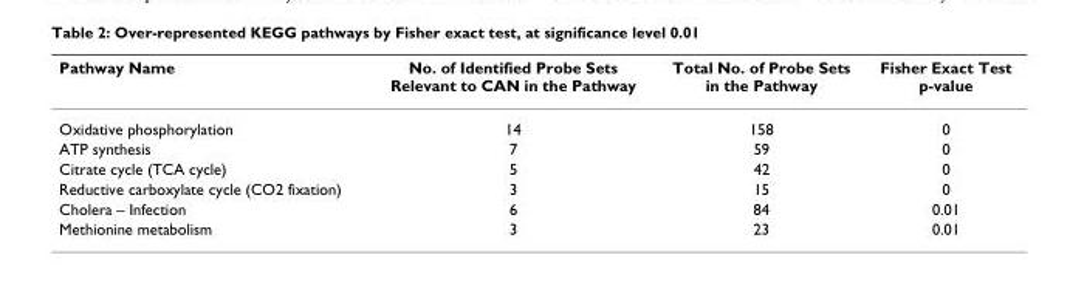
<table><thead><tr><td>Pathway Name</td><td>No. of Identified Probe Sets Relevant to CAN in the Pathway</td><td>Total No. of Probe Sets in the Pathway</td><td>Fisher Exact Test p-value</td></tr></thead><tbody><tr><td>Oxidative phosphorylation</td><td>14</td><td>158</td><td>0</td></tr><tr><td>ATP synthesis</td><td>7</td><td>59</td><td>0</td></tr><tr><td>Citrate cycle (TCA cycle)</td><td>5</td><td>42</td><td>0</td></tr><tr><td>Reductive carboxylate cycle (CO2 fixation)</td><td>3</td><td>15</td><td>0</td></tr><tr><td>Cholera – Infection</td><td>6</td><td>84</td><td>0.01</td></tr><tr><td>Methionine metabolism</td><td>3</td><td>23</td><td>0.01</td></tr></tbody></table>